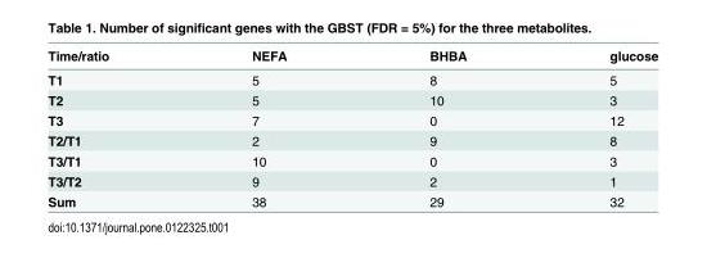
<table><thead><tr><td>Time/ratio</td><td>NEFA</td><td>BHBA</td><td>glucose</td></tr></thead><tbody><tr><td>T1</td><td>5</td><td>8</td><td>5</td></tr><tr><td>T2</td><td>5</td><td>10</td><td>3</td></tr><tr><td>T3</td><td>7</td><td>0</td><td>12</td></tr><tr><td>T2/T1</td><td>2</td><td>9</td><td>8</td></tr><tr><td>T3/T1</td><td>10</td><td>0</td><td>3</td></tr><tr><td>T3/T2</td><td>9</td><td>2</td><td>1</td></tr><tr><td>Sum</td><td>38</td><td>29</td><td>32</td></tr></tbody></table>